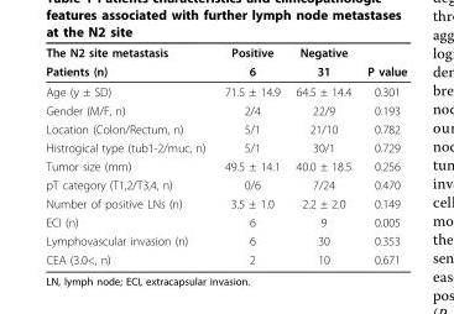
<table><thead><tr><td rowspan="2">The N2 site metastasis Patients (n)</td><td rowspan="2">Positive 6</td><td rowspan="2">Negative 31</td><td rowspan="2">P value</td></tr><tr></tr></thead><tbody><tr><td>Age (y ± SD)</td><td>71.5 ± 14.9</td><td>64.5 ± 14.4</td><td>0.301</td></tr><tr><td>Gender (M/F, n)</td><td>2/4</td><td>22/9</td><td>0.193</td></tr><tr><td>Location (Colon/Rectum, n)</td><td>5/1</td><td>21/10</td><td>0.782</td></tr><tr><td>Histrogical type (tub1-2/muc, n)</td><td>5/1</td><td>30/1</td><td>0.729</td></tr><tr><td>Tumor size (mm)</td><td>49.5 ± 14.1</td><td>40.0 ± 18.5</td><td>0.256</td></tr><tr><td>pT category (T1,2/T3,4, n)</td><td>0/6</td><td>7/24</td><td>0.470</td></tr><tr><td>Number of positive LNs (n)</td><td>3.5 ± 1.0</td><td>2.2 ± 2.0</td><td>0.149</td></tr><tr><td>ECI (n)</td><td>6</td><td>9</td><td>0.005</td></tr><tr><td>Lymphovascular invasion (n)</td><td>6</td><td>30</td><td>0.353</td></tr><tr><td>CEA (3.0&lt;, n)</td><td>2</td><td>10</td><td>0.671</td></tr></tbody></table>